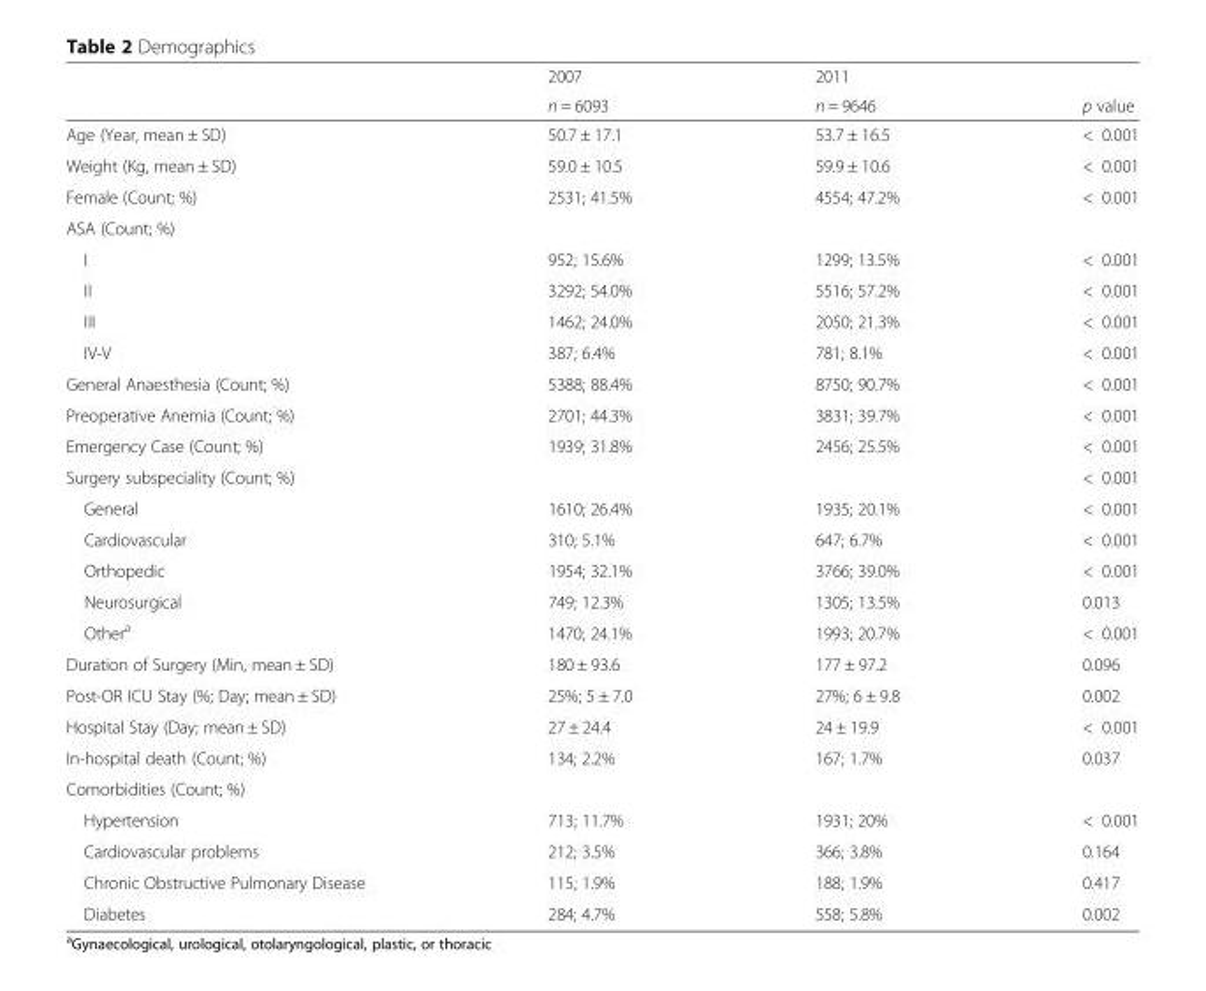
<table><thead><tr><td rowspan="2"></td><td rowspan="2">2007 n = 6093</td><td rowspan="2">2011 n = 9646</td><td rowspan="2">p value</td></tr><tr></tr></thead><tbody><tr><td>Age (Year, mean ± SD)</td><td>50.7 ± 17.1</td><td>53.7 ± 16.5</td><td>&lt; 0.001</td></tr><tr><td>Weight (Kg, mean ± SD)</td><td>59.0 ± 10.5</td><td>59.9 ± 10.6</td><td>&lt; 0.001</td></tr><tr><td>Female (Count; %)</td><td>2531; 41.5%</td><td>4554; 47.2%</td><td>&lt; 0.001</td></tr><tr><td colspan="4">ASA (Count; %)</td></tr><tr><td>I</td><td>952; 15.6%</td><td>1299; 13.5%</td><td>&lt; 0.001</td></tr><tr><td>II</td><td>3292; 54.0%</td><td>5516; 57.2%</td><td>&lt; 0.001</td></tr><tr><td>III</td><td>1462; 24.0%</td><td>2050; 21.3%</td><td>&lt; 0.001</td></tr><tr><td>IV-V</td><td>387; 6.4%</td><td>781; 8.1%</td><td>&lt; 0.001</td></tr><tr><td>General Anaesthesia (Count; %)</td><td>5388; 88.4%</td><td>8750; 90.7%</td><td>&lt; 0.001</td></tr><tr><td>Preoperative Anemia (Count; %)</td><td>2701; 44.3%</td><td>3831; 39.7%</td><td>&lt; 0.001</td></tr><tr><td>Emergency Case (Count; %)</td><td>1939; 31.8%</td><td>2456; 25.5%</td><td>&lt; 0.001</td></tr><tr><td>Surgery subspeciality (Count; %)</td><td></td><td></td><td>&lt; 0.001</td></tr><tr><td>General</td><td>1610; 26.4%</td><td>1935; 20.1%</td><td>&lt; 0.001</td></tr><tr><td>Cardiovascular</td><td>310; 5.1%</td><td>647; 6.7%</td><td>&lt; 0.001</td></tr><tr><td>Orthopedic</td><td>1954; 32.1%</td><td>3766; 39.0%</td><td>&lt; 0.001</td></tr><tr><td>Neurosurgical</td><td>749; 12.3%</td><td>1305; 13.5%</td><td>0.013</td></tr><tr><td>Other<sup>a</sup></td><td>1470; 24.1%</td><td>1993; 20.7%</td><td>&lt; 0.001</td></tr><tr><td>Duration of Surgery (Min, mean ± SD)</td><td>180 ± 93.6</td><td>177 ± 97.2</td><td>0.096</td></tr><tr><td>Post-OR ICU Stay (%; Day; mean ± SD)</td><td>25%; 5 ± 7.0</td><td>27%; 6 ± 9.8</td><td>0.002</td></tr><tr><td>Hospital Stay (Day; mean ± SD)</td><td>27 ± 24.4</td><td>24 ± 19.9</td><td>&lt; 0.001</td></tr><tr><td>In-hospital death (Count; %)</td><td>134; 2.2%</td><td>167; 1.7%</td><td>0.037</td></tr><tr><td colspan="4">Comorbidities (Count; %)</td></tr><tr><td>Hypertension</td><td>713; 11.7%</td><td>1931; 20%</td><td>&lt; 0.001</td></tr><tr><td>Cardiovascular problems</td><td>212; 3.5%</td><td>366; 3.8%</td><td>0.164</td></tr><tr><td>Chronic Obstructive Pulmonary Disease</td><td>115; 1.9%</td><td>188; 1.9%</td><td>0.417</td></tr><tr><td>Diabetes</td><td>284; 4.7%</td><td>558; 5.8%</td><td>0.002</td></tr></tbody></table>